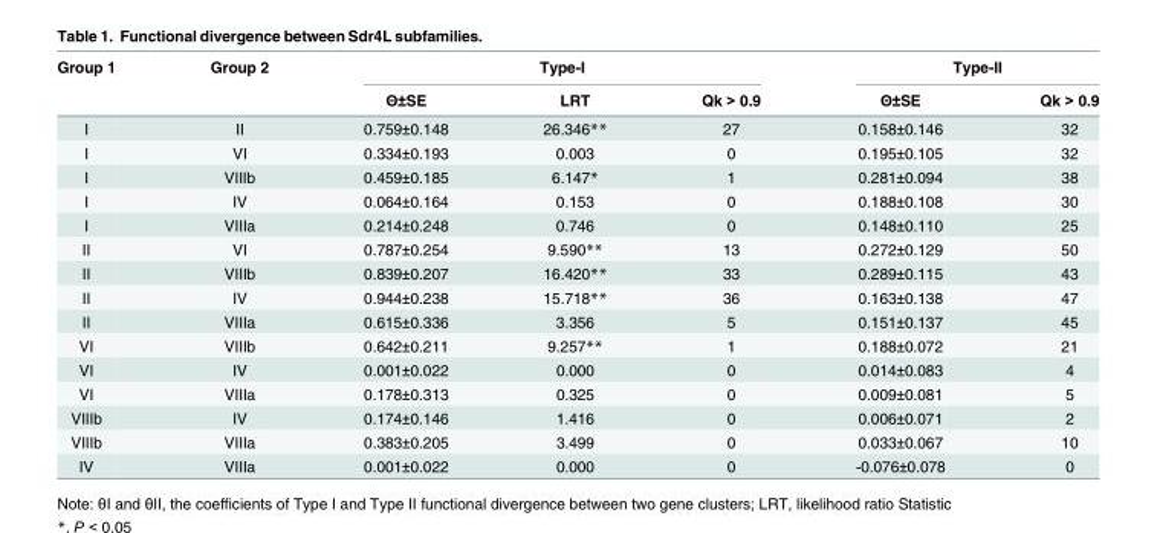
<table><thead><tr><td rowspan="2">Group 1</td><td rowspan="2">Group 2</td><td colspan="3">Type-I</td><td colspan="2">Type-II</td></tr><tr><td>Θ±SE</td><td>LRT</td><td>Qk &gt; 0.9</td><td>Θ±SE</td><td>Qk &gt; 0.9</td></tr></thead><tbody><tr><td>I</td><td>II</td><td>0.759±0.148</td><td>26.346**</td><td>27</td><td>0.158±0.146</td><td>32</td></tr><tr><td>I</td><td>VI</td><td>0.334±0.193</td><td>0.003</td><td>0</td><td>0.195±0.105</td><td>32</td></tr><tr><td>I</td><td>VIIIb</td><td>0.459±0.185</td><td>6.147*</td><td>1</td><td>0.281±0.094</td><td>38</td></tr><tr><td>I</td><td>IV</td><td>0.064±0.164</td><td>0.153</td><td>0</td><td>0.188±0.108</td><td>30</td></tr><tr><td>I</td><td>VIIIa</td><td>0.214±0.248</td><td>0.746</td><td>0</td><td>0.148±0.110</td><td>25</td></tr><tr><td>II</td><td>VI</td><td>0.787±0.254</td><td>9.590**</td><td>13</td><td>0.272±0.129</td><td>50</td></tr><tr><td>II</td><td>VIIIb</td><td>0.839±0.207</td><td>16.420**</td><td>33</td><td>0.289±0.115</td><td>43</td></tr><tr><td>II</td><td>IV</td><td>0.944±0.238</td><td>15.718**</td><td>36</td><td>0.163±0.138</td><td>47</td></tr><tr><td>II</td><td>VIIIa</td><td>0.615±0.336</td><td>3.356</td><td>5</td><td>0.151±0.137</td><td>45</td></tr><tr><td>VI</td><td>VIIIb</td><td>0.642±0.211</td><td>9.257**</td><td>1</td><td>0.188±0.072</td><td>21</td></tr><tr><td>VI</td><td>IV</td><td>0.001±0.022</td><td>0.000</td><td>0</td><td>0.014±0.083</td><td>4</td></tr><tr><td>VI</td><td>VIIIa</td><td>0.178±0.313</td><td>0.325</td><td>0</td><td>0.009±0.081</td><td>5</td></tr><tr><td>VIIIb</td><td>IV</td><td>0.174±0.146</td><td>1.416</td><td>0</td><td>0.006±0.071</td><td>2</td></tr><tr><td>VIIIb</td><td>VIIIa</td><td>0.383±0.205</td><td>3.499</td><td>0</td><td>0.033±0.067</td><td>10</td></tr><tr><td>IV</td><td>VIIIa</td><td>0.001±0.022</td><td>0.000</td><td>0</td><td>-0.076±0.078</td><td>0</td></tr></tbody></table>